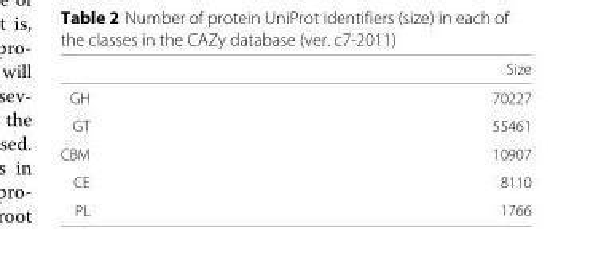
<table><thead><tr><td></td><td>Size</td></tr></thead><tbody><tr><td>GH</td><td>70227</td></tr><tr><td>GT</td><td>55461</td></tr><tr><td>CBM</td><td>10907</td></tr><tr><td>CE</td><td>8110</td></tr><tr><td>PL</td><td>1766</td></tr></tbody></table>